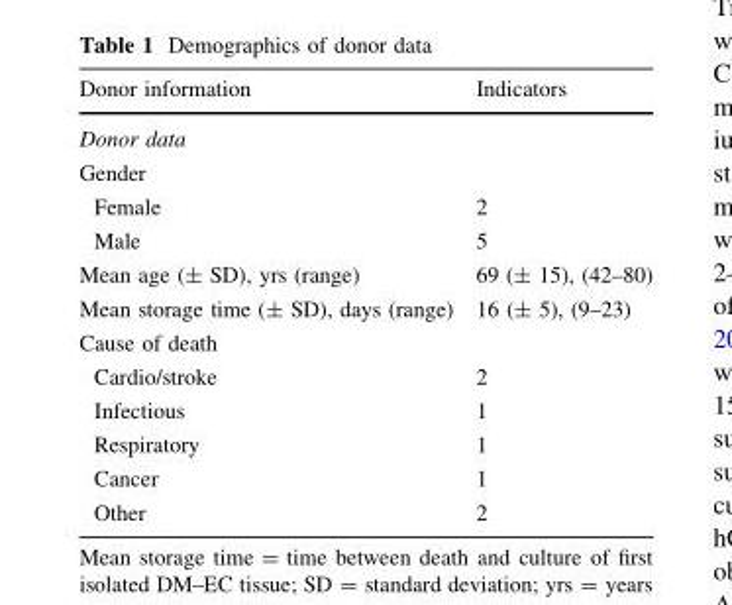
<table><thead><tr><td>Donor information</td><td>Indicators</td></tr></thead><tbody><tr><td colspan="2">Donor data</td></tr><tr><td colspan="2">Gender</td></tr><tr><td>Female</td><td>2</td></tr><tr><td>Male</td><td>5</td></tr><tr><td>Mean age (± SD), yrs (range)</td><td>69 (± 15), (42–80)</td></tr><tr><td>Mean storage time (± SD), days (range)</td><td>16 (± 5), (9–23)</td></tr><tr><td colspan="2">Cause of death</td></tr><tr><td>Cardio/stroke</td><td>2</td></tr><tr><td>Infectious</td><td>1</td></tr><tr><td>Respiratory</td><td>1</td></tr><tr><td>Cancer</td><td>1</td></tr><tr><td>Other</td><td>2</td></tr></tbody></table>